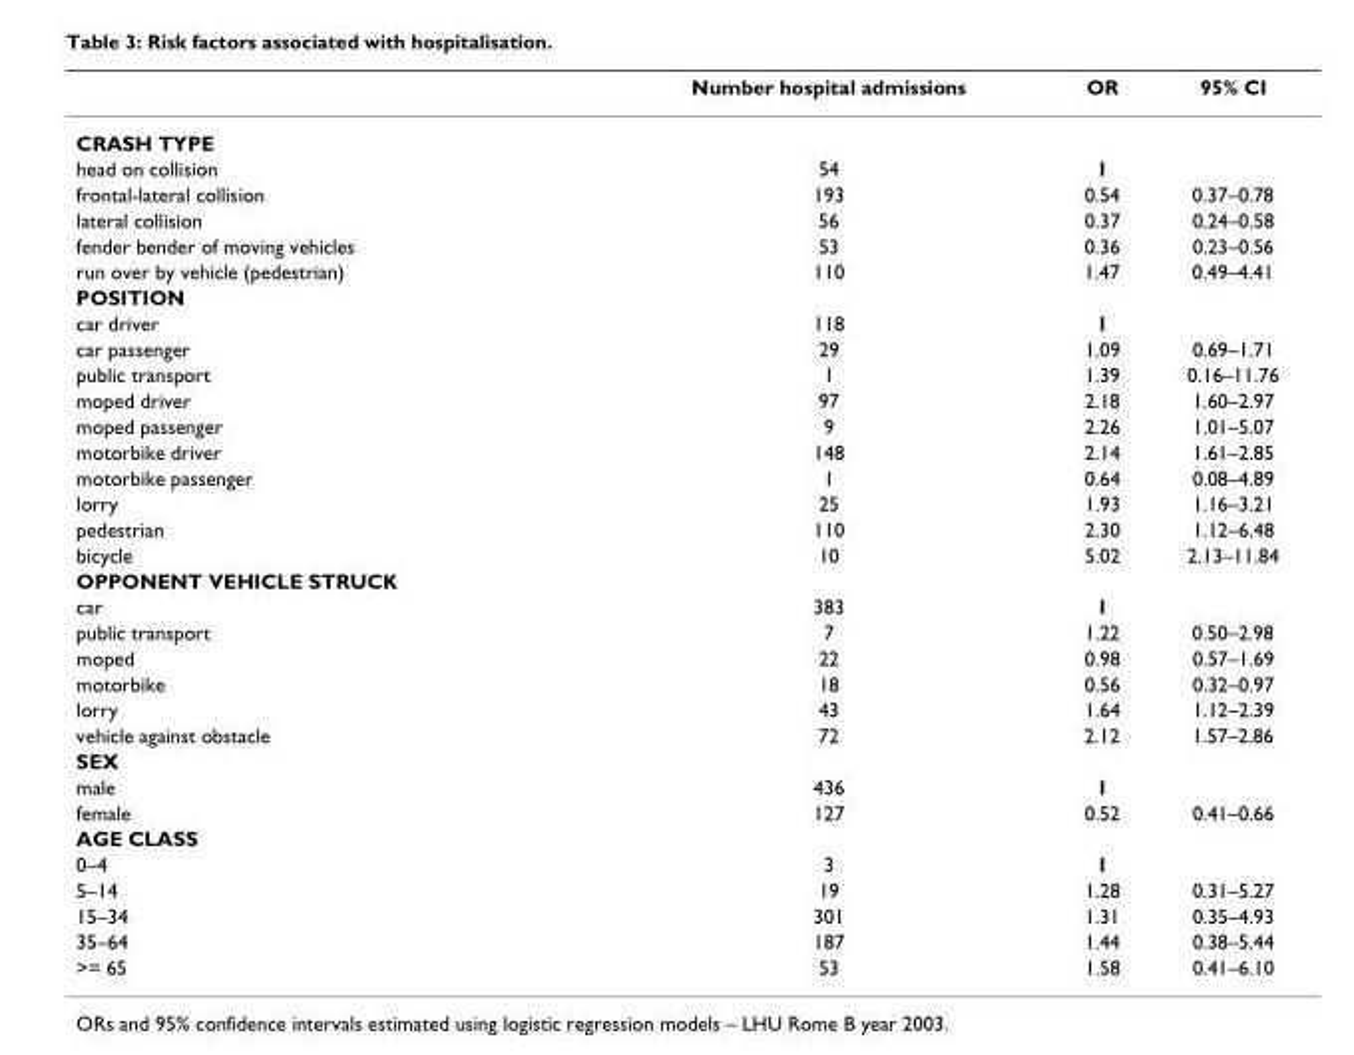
<table><thead><tr><td></td><td>Number hospital admissions</td><td>OR</td><td>95% CI</td></tr></thead><tbody><tr><td colspan="4">CRASH TYPE</td></tr><tr><td>head on collision</td><td>54</td><td>1</td><td></td></tr><tr><td>frontal-lateral collision</td><td>193</td><td>0.54</td><td>0.37–0.78</td></tr><tr><td>lateral collision</td><td>56</td><td>0.37</td><td>0.24–0.58</td></tr><tr><td>fender bender of moving vehicles</td><td>53</td><td>0.36</td><td>0.23–0.56</td></tr><tr><td>run over by vehicle (pedestrian)</td><td>110</td><td>1.47</td><td>0.49–4.41</td></tr><tr><td colspan="4">POSITION</td></tr><tr><td>car driver</td><td>118</td><td>1</td><td></td></tr><tr><td>car passenger</td><td>29</td><td>1.09</td><td>0.69–1.71</td></tr><tr><td>public transport</td><td>1</td><td>1.39</td><td>0.16–11.76</td></tr><tr><td>moped driver</td><td>97</td><td>2.18</td><td>1.60–2.97</td></tr><tr><td>moped passenger</td><td>9</td><td>2.26</td><td>1.01–5.07</td></tr><tr><td>motorbike driver</td><td>148</td><td>2.14</td><td>1.61–2.85</td></tr><tr><td>motorbike passenger</td><td>1</td><td>0.64</td><td>0.08–4.89</td></tr><tr><td>lorry</td><td>25</td><td>1.93</td><td>1.16–3.21</td></tr><tr><td>pedestrian</td><td>110</td><td>2.30</td><td>1.12–6.48</td></tr><tr><td>bicycle</td><td>10</td><td>5.02</td><td>2.13–11.84</td></tr><tr><td colspan="4">OPPONENT VEHICLE STRUCK</td></tr><tr><td>car</td><td>383</td><td>1</td><td></td></tr><tr><td>public transport</td><td>7</td><td>1.22</td><td>0.50–2.98</td></tr><tr><td>moped</td><td>22</td><td>0.98</td><td>0.57–1.69</td></tr><tr><td>motorbike</td><td>18</td><td>0.56</td><td>0.32–0.97</td></tr><tr><td>lorry</td><td>43</td><td>1.64</td><td>1.12–2.39</td></tr><tr><td>vehicle against obstacle</td><td>72</td><td>2.12</td><td>1.57–2.86</td></tr><tr><td colspan="4">SEX</td></tr><tr><td>male</td><td>436</td><td>1</td><td></td></tr><tr><td>female</td><td>127</td><td>0.52</td><td>0.41–0.66</td></tr><tr><td colspan="4">AGE CLASS</td></tr><tr><td>0–4</td><td>3</td><td>1</td><td></td></tr><tr><td>5–14</td><td>19</td><td>1.28</td><td>0.31–5.27</td></tr><tr><td>15–34</td><td>301</td><td>1.31</td><td>0.35–4.93</td></tr><tr><td>35–64</td><td>187</td><td>1.44</td><td>0.38–5.44</td></tr><tr><td>&gt;= 65</td><td>53</td><td>1.58</td><td>0.41–6.10</td></tr></tbody></table>